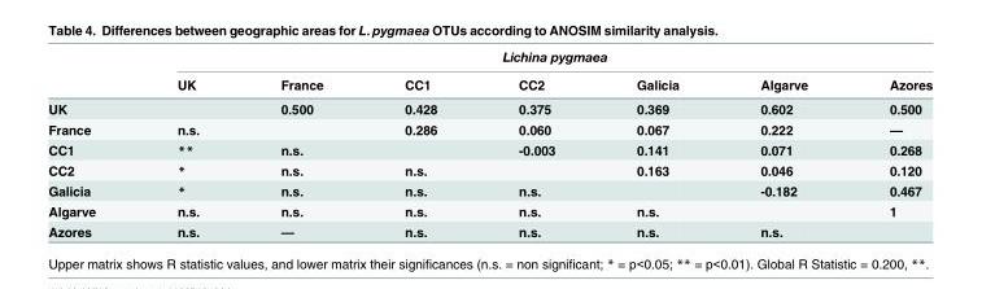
<table><thead><tr><td rowspan="2"></td><td colspan="7">Lichina pygmaea</td></tr><tr><td>UK</td><td>France</td><td>CC1</td><td>CC2</td><td>Galicia</td><td>Algarve</td><td>Azores</td></tr></thead><tbody><tr><td>UK</td><td></td><td>0.500</td><td>0.428</td><td>0.375</td><td>0.369</td><td>0.602</td><td>0.500</td></tr><tr><td>France</td><td>n.s.</td><td></td><td>0.286</td><td>0.060</td><td>0.067</td><td>0.222</td><td>—</td></tr><tr><td>CC1</td><td>**</td><td>n.s.</td><td></td><td>-0.003</td><td>0.141</td><td>0.071</td><td>0.268</td></tr><tr><td>CC2</td><td>*</td><td>n.s.</td><td>n.s.</td><td></td><td>0.163</td><td>0.046</td><td>0.120</td></tr><tr><td>Galicia</td><td>*</td><td>n.s.</td><td>n.s.</td><td>n.s.</td><td></td><td>-0.182</td><td>0.467</td></tr><tr><td>Algarve</td><td>n.s.</td><td>n.s.</td><td>n.s.</td><td>n.s.</td><td>n.s.</td><td></td><td>1</td></tr><tr><td>Azores</td><td>n.s.</td><td>—</td><td>n.s.</td><td>n.s.</td><td>n.s.</td><td>n.s.</td><td></td></tr></tbody></table>